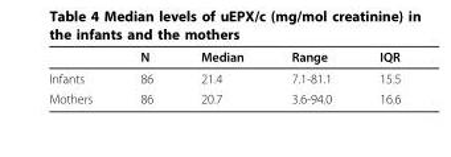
<table><thead><tr><td></td><td>N</td><td>Median</td><td>Range</td><td>IQR</td></tr></thead><tbody><tr><td>Infants</td><td>86</td><td>21.4</td><td>7.1-81.1</td><td>15.5</td></tr><tr><td>Mothers</td><td>86</td><td>20.7</td><td>3.6-94.0</td><td>16.6</td></tr></tbody></table>